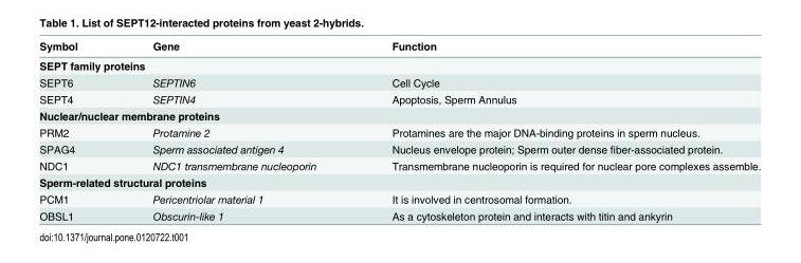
<table><thead><tr><td>Symbol</td><td>Gene</td><td>Function</td></tr></thead><tbody><tr><td colspan="3">SEPT family proteins</td></tr><tr><td>SEPT6</td><td>SEPTIN6</td><td>Cell Cycle</td></tr><tr><td>SEPT4</td><td>SEPTIN4</td><td>Apoptosis, Sperm Annulus</td></tr><tr><td colspan="3">Nuclear/nuclear membrane proteins</td></tr><tr><td>PRM2</td><td>Protamine 2</td><td>Protamines are the major DNA-binding proteins in sperm nucleus.</td></tr><tr><td>SPAG4</td><td>Sperm associated antigen 4</td><td>Nucleus envelope protein; Sperm outer dense fiber-associated protein.</td></tr><tr><td>NDC1</td><td>NDC1 transmembrane nucleoporin</td><td>Transmembrane nucleoporin is required for nuclear pore complexes assemble.</td></tr><tr><td colspan="3">Sperm-related structural proteins</td></tr><tr><td>PCM1</td><td>Pericentriolar material 1</td><td>It is involved in centrosomal formation.</td></tr><tr><td>OBSL1</td><td>Obscurin-like 1</td><td>As a cytoskeleton protein and interacts with titin and ankyrin</td></tr></tbody></table>